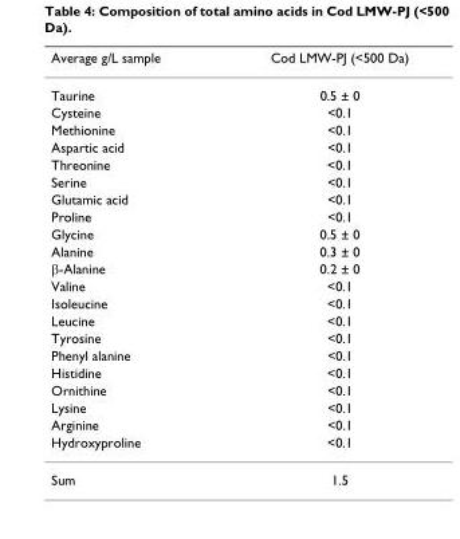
<table><thead><tr><td>Average g/L sample</td><td>Cod LMW-PJ (&lt;500 Da)</td></tr></thead><tbody><tr><td>Taurine</td><td>0.5 ± 0</td></tr><tr><td>Cysteine</td><td>&lt;0.1</td></tr><tr><td>Methionine</td><td>&lt;0.1</td></tr><tr><td>Aspartic acid</td><td>&lt;0.1</td></tr><tr><td>Threonine</td><td>&lt;0.1</td></tr><tr><td>Serine</td><td>&lt;0.1</td></tr><tr><td>Glutamic acid</td><td>&lt;0.1</td></tr><tr><td>Proline</td><td>&lt;0.1</td></tr><tr><td>Glycine</td><td>0.5 ± 0</td></tr><tr><td>Alanine</td><td>0.3 ± 0</td></tr><tr><td>β-Alanine</td><td>0.2 ± 0</td></tr><tr><td>Valine</td><td>&lt;0.1</td></tr><tr><td>Isoleucine</td><td>&lt;0.1</td></tr><tr><td>Leucine</td><td>&lt;0.1</td></tr><tr><td>Tyrosine</td><td>&lt;0.1</td></tr><tr><td>Phenyl alanine</td><td>&lt;0.1</td></tr><tr><td>Histidine</td><td>&lt;0.1</td></tr><tr><td>Ornithine</td><td>&lt;0.1</td></tr><tr><td>Lysine</td><td>&lt;0.1</td></tr><tr><td>Arginine</td><td>&lt;0.1</td></tr><tr><td>Hydroxyproline</td><td>&lt;0.1</td></tr><tr><td>Sum</td><td>1.5</td></tr></tbody></table>